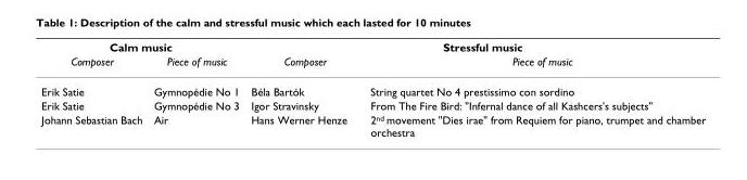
<table><thead><tr><td colspan="2">Calm music</td><td colspan="2">Stressful music</td></tr><tr><td>Composer</td><td>Piece of music</td><td>Composer</td><td>Piece of music</td></tr></thead><tbody><tr><td>Erik Satie</td><td>Gymnopédie No 1</td><td>Béla Bartók</td><td>String quartet No 4 prestissimo con sordino</td></tr><tr><td>Erik Satie</td><td>Gymnopédie No 3</td><td>Igor Stravinsky</td><td>From The Fire Bird: &quot;Infernal dance of all Kashcers&#x27;s subjects&quot;</td></tr><tr><td>Johann Sebastian Bach</td><td>Air</td><td>Hans Werner Henze</td><td>2<sup>nd</sup> movement &quot;Dies irae&quot; from Requiem for piano, trumpet and chamber orchestra</td></tr></tbody></table>